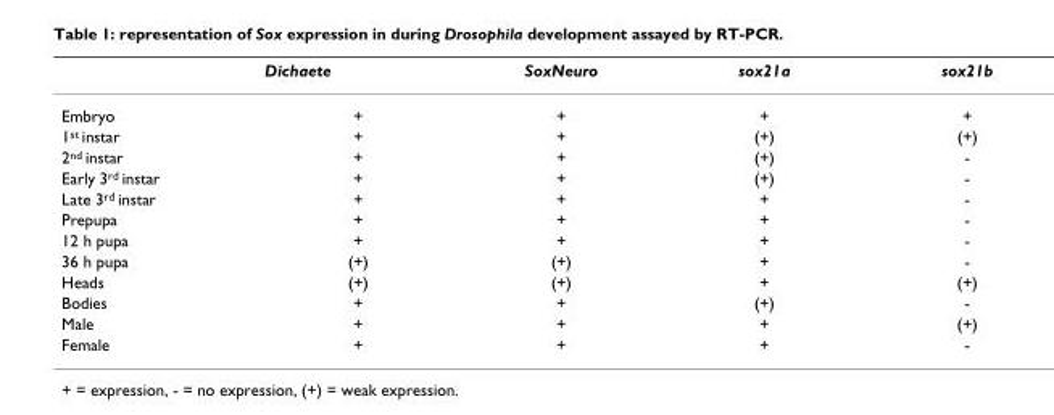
<table><thead><tr><td></td><td>Dichaete</td><td>SoxNeuro</td><td>sox21a</td><td>sox21b</td></tr></thead><tbody><tr><td>Embryo</td><td>+</td><td>+</td><td>+</td><td>+</td></tr><tr><td>1<sup>st</sup> instar</td><td>+</td><td>+</td><td>(+)</td><td>(+)</td></tr><tr><td>2<sup>nd</sup> instar</td><td>+</td><td>+</td><td>(+)</td><td>-</td></tr><tr><td>Early 3<sup>rd</sup> instar</td><td>+</td><td>+</td><td>(+)</td><td>-</td></tr><tr><td>Late 3<sup>rd</sup> instar</td><td>+</td><td>+</td><td>+</td><td>-</td></tr><tr><td>Prepupa</td><td>+</td><td>+</td><td>+</td><td>-</td></tr><tr><td>12 h pupa</td><td>+</td><td>+</td><td>+</td><td>-</td></tr><tr><td>36 h pupa</td><td>(+)</td><td>(+)</td><td>+</td><td>-</td></tr><tr><td>Heads</td><td>(+)</td><td>(+)</td><td>+</td><td>(+)</td></tr><tr><td>Bodies</td><td>+</td><td>+</td><td>(+)</td><td>-</td></tr><tr><td>Male</td><td>+</td><td>+</td><td>+</td><td>(+)</td></tr><tr><td>Female</td><td>+</td><td>+</td><td>+</td><td>-</td></tr></tbody></table>